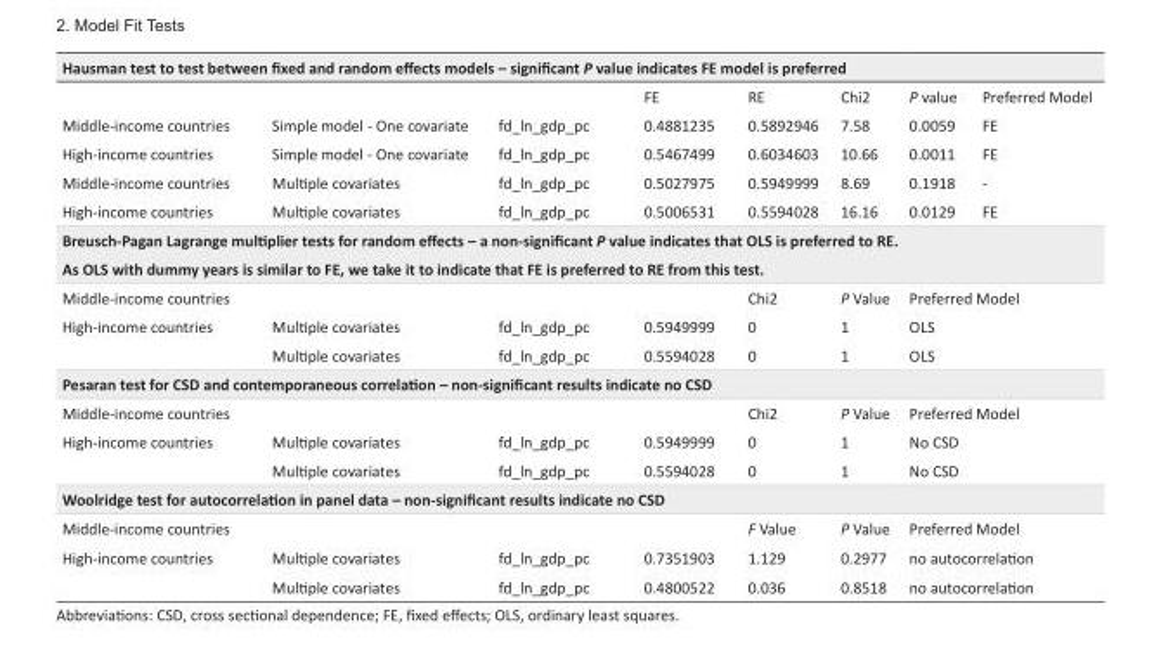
<table><tbody><tr><td colspan="8">Hausman test to test between fixed and random effects models – significant P value indicates FE model is preferred</td></tr><tr><td></td><td></td><td></td><td>FE</td><td>RE</td><td>Chi2</td><td>P value</td><td>Preferred Model</td></tr><tr><td>Middle-income countries</td><td>Simple model - One covariate</td><td>fd_ln_gdp_pc</td><td>0.4881235</td><td>0.5892946</td><td>7.58</td><td>0.0059</td><td>FE</td></tr><tr><td>High-income countries</td><td>Simple model - One covariate</td><td>fd_ln_gdp_pc</td><td>0.5467499</td><td>0.6034603</td><td>10.66</td><td>0.0011</td><td>FE</td></tr><tr><td>Middle-income countries</td><td>Multiple covariates</td><td>fd_ln_gdp_pc</td><td>0.5027975</td><td>0.5949999</td><td>8.69</td><td>0.1918</td><td>-</td></tr><tr><td>High-income countries</td><td>Multiple covariates</td><td>fd_ln_gdp_pc</td><td>0.5006531</td><td>0.5594028</td><td>16.16</td><td>0.0129</td><td>FE</td></tr><tr><td colspan="8">Breusch-Pagan Lagrange multiplier tests for random effects – a non-significant P value indicates that OLS is preferred to RE.</td></tr><tr><td colspan="8">As OLS with dummy years is similar to FE, we take it to indicate that FE is preferred to RE from this test.</td></tr><tr><td>Middle-income countries</td><td></td><td></td><td></td><td>Chi2</td><td>P Value</td><td colspan="2">Preferred Model</td></tr><tr><td rowspan="2">High-income countries</td><td>Multiple covariates</td><td>fd_ln_gdp_pc</td><td>0.5949999</td><td>0</td><td>1</td><td colspan="2">OLS</td></tr><tr><td>Multiple covariates</td><td>fd_ln_gdp_pc</td><td>0.5594028</td><td>0</td><td>1</td><td colspan="2">OLS</td></tr><tr><td colspan="8">Pesaran test for CSD and contemporaneous correlation – non-significant results indicate no CSD</td></tr><tr><td>Middle-income countries</td><td></td><td></td><td></td><td>Chi2</td><td>P Value</td><td colspan="2">Preferred Model</td></tr><tr><td rowspan="2">High-income countries</td><td>Multiple covariates</td><td>fd_ln_gdp_pc</td><td>0.5949999</td><td>0</td><td>1</td><td colspan="2">No CSD</td></tr><tr><td>Multiple covariates</td><td>fd_ln_gdp_pc</td><td>0.5594028</td><td>0</td><td>1</td><td colspan="2">No CSD</td></tr><tr><td colspan="8">Woolridge test for autocorrelation in panel data – non-significant results indicate no CSD</td></tr><tr><td>Middle-income countries</td><td></td><td></td><td></td><td>F Value</td><td>P Value</td><td colspan="2">Preferred Model</td></tr><tr><td rowspan="2">High-income countries</td><td>Multiple covariates</td><td>fd_ln_gdp_pc</td><td>0.7351903</td><td>1.129</td><td>0.2977</td><td colspan="2">no autocorrelation</td></tr><tr><td>Multiple covariates</td><td>fd_ln_gdp_pc</td><td>0.4800522</td><td>0.036</td><td>0.8518</td><td colspan="2">no autocorrelation</td></tr></tbody></table>